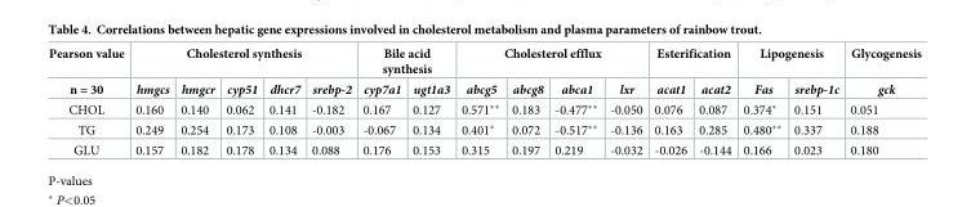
<table><thead><tr><td rowspan="2">Pearson value n = 30</td><td colspan="5">Cholesterol synthesis</td><td colspan="2">Bile acid synthesis</td><td colspan="4">Cholesterol efflux</td><td colspan="2">Esterification</td><td colspan="2">Lipogenesis</td><td rowspan="2">Glycogenesis gck</td></tr><tr><td>hmgcs</td><td>hmgcr</td><td>cyp51</td><td>dhcr7</td><td>srebp-2</td><td>cyp7a1</td><td>ugt1a3</td><td>abcg5</td><td>abcg8</td><td>abca1</td><td>lxr</td><td>acat1</td><td>acat2</td><td>Fas</td><td>srebp-1c</td></tr></thead><tbody><tr><td>CHOL</td><td>0.160</td><td>0.140</td><td>0.062</td><td>0.141</td><td>-0.182</td><td>0.167</td><td>0.127</td><td>0.571**</td><td>0.183</td><td>-0.477**</td><td>-0.050</td><td>0.076</td><td>0.087</td><td>0.374*</td><td>0.151</td><td>0.051</td></tr><tr><td>TG</td><td>0.249</td><td>0.254</td><td>0.173</td><td>0.108</td><td>-0.003</td><td>-0.067</td><td>0.134</td><td>0.401*</td><td>0.072</td><td>-0.517**</td><td>-0.136</td><td>0.163</td><td>0.285</td><td>0.480**</td><td>0.337</td><td>0.188</td></tr><tr><td>GLU</td><td>0.157</td><td>0.182</td><td>0.178</td><td>0.134</td><td>0.088</td><td>0.176</td><td>0.153</td><td>0.315</td><td>0.197</td><td>0.219</td><td>-0.032</td><td>-0.026</td><td>-0.144</td><td>0.166</td><td>0.023</td><td>0.180</td></tr></tbody></table>